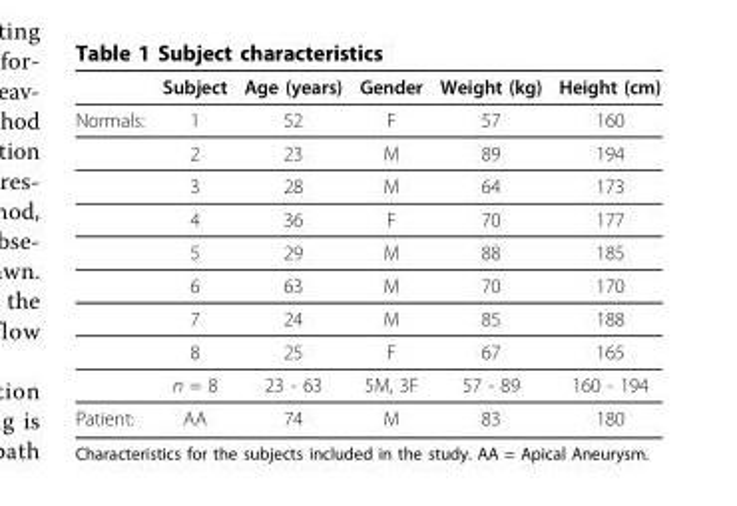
<table><thead><tr><td></td><td>Subject</td><td>Age (years)</td><td>Gender</td><td>Weight (kg)</td><td>Height (cm)</td></tr></thead><tbody><tr><td rowspan="9">Normals:</td><td>1</td><td>52</td><td>F</td><td>57</td><td>160</td></tr><tr><td>2</td><td>23</td><td>M</td><td>89</td><td>194</td></tr><tr><td>3</td><td>28</td><td>M</td><td>64</td><td>173</td></tr><tr><td>4</td><td>36</td><td>F</td><td>70</td><td>177</td></tr><tr><td>5</td><td>29</td><td>M</td><td>88</td><td>185</td></tr><tr><td>6</td><td>63</td><td>M</td><td>70</td><td>170</td></tr><tr><td>7</td><td>24</td><td>M</td><td>85</td><td>188</td></tr><tr><td>8</td><td>25</td><td>F</td><td>67</td><td>165</td></tr><tr><td>n = 8</td><td>23 - 63</td><td>5M, 3F</td><td>57 - 89</td><td>160 - 194</td></tr><tr><td>Patient:</td><td>AA</td><td>74</td><td>M</td><td>83</td><td>180</td></tr></tbody></table>